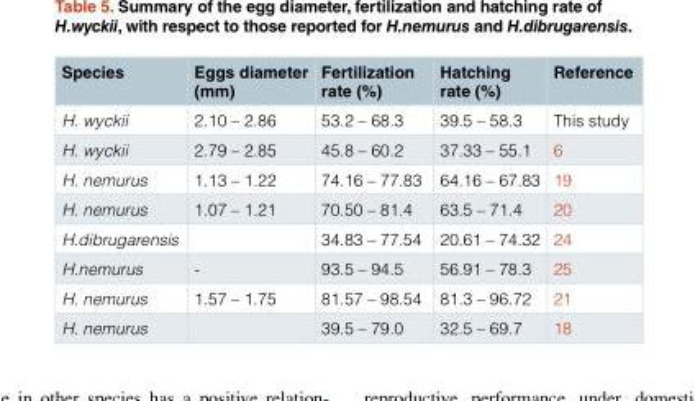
<table><thead><tr><td>Species</td><td>Eggs diameter (mm)</td><td>Fertilization rate (%)</td><td>Hatching rate (%)</td><td>Reference</td></tr></thead><tbody><tr><td>H. wyckii</td><td>2.10 – 2.86</td><td>53.2 – 68.3</td><td>39.5 – 58.3</td><td>This study</td></tr><tr><td>H. wyckii</td><td>2.79 – 2.85</td><td>45.8 – 60.2</td><td>37.33 – 55.1</td><td>6</td></tr><tr><td>H. nemurus</td><td>1.13 – 1.22</td><td>74.16 – 77.83</td><td>64.16 – 67.83</td><td>19</td></tr><tr><td>H. nemurus</td><td>1.07 – 1.21</td><td>70.50 – 81.4</td><td>63.5 – 71.4</td><td>20</td></tr><tr><td>H.dibrugarensis</td><td></td><td>34.83 – 77.54</td><td>20.61 – 74.32</td><td>24</td></tr><tr><td>H.nemurus</td><td>-</td><td>93.5 – 94.5</td><td>56.91 – 78.3</td><td>25</td></tr><tr><td>H. nemurus</td><td>1.57 – 1.75</td><td>81.57 – 98.54</td><td>81.3 – 96.72</td><td>21</td></tr><tr><td>H. nemurus</td><td></td><td>39.5 – 79.0</td><td>32.5 – 69.7</td><td>18</td></tr></tbody></table>